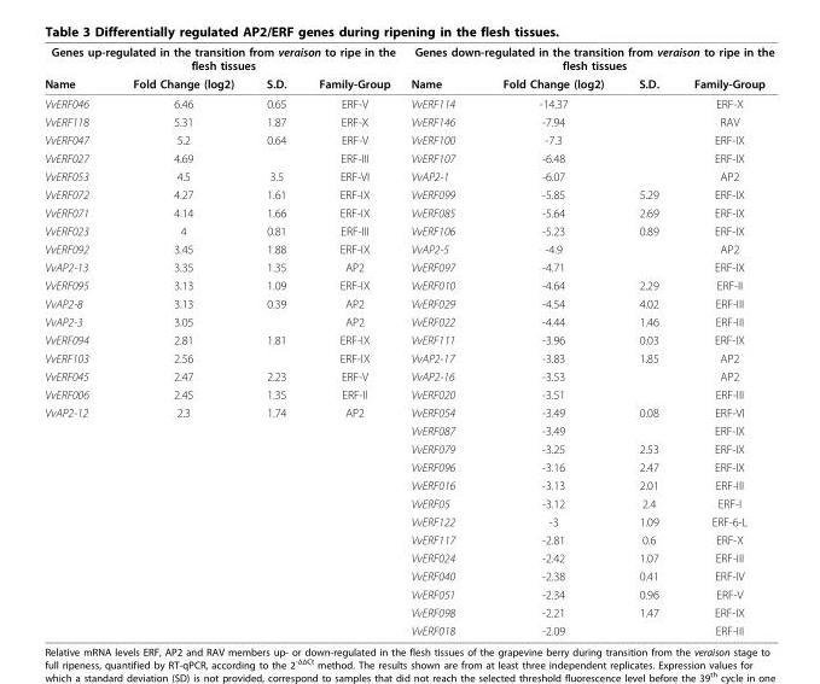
<table><thead><tr><td colspan="4">Genes up-regulated in the transition from veraison to ripe in the flesh tissues</td><td colspan="4">Genes down-regulated in the transition from veraison to ripe in the flesh tissues</td></tr><tr><td>Name</td><td>Fold Change (log2)</td><td>S.D.</td><td>Family-Group</td><td>Name</td><td>Fold Change (log2)</td><td>S.D.</td><td>Family-Group</td></tr></thead><tbody><tr><td>VvERF046</td><td>6.46</td><td>0.65</td><td>ERF-V</td><td>VvERF114</td><td>-14.37</td><td></td><td>ERF-X</td></tr><tr><td>VvERF118</td><td>5.31</td><td>1.87</td><td>ERF-X</td><td>VvERF146</td><td>-7.94</td><td></td><td>RAV</td></tr><tr><td>VvERF047</td><td>5.2</td><td>0.64</td><td>ERF-V</td><td>VvERF100</td><td>-7.3</td><td></td><td>ERF-IX</td></tr><tr><td>VvERF027</td><td>4.69</td><td></td><td>ERF-III</td><td>VvERF107</td><td>-6.48</td><td></td><td>ERF-IX</td></tr><tr><td>VvERF053</td><td>4.5</td><td>3.5</td><td>ERF-VI</td><td>VvAP2-1</td><td>-6.07</td><td></td><td>AP2</td></tr><tr><td>VvERF072</td><td>4.27</td><td>1.61</td><td>ERF-IX</td><td>VvERF099</td><td>-5.85</td><td>5.29</td><td>ERF-IX</td></tr><tr><td>VvERF071</td><td>4.14</td><td>1.66</td><td>ERF-IX</td><td>VvERF085</td><td>-5.64</td><td>2.69</td><td>ERF-IX</td></tr><tr><td>VvERF023</td><td>4</td><td>0.81</td><td>ERF-III</td><td>VvERF106</td><td>-5.23</td><td>0.89</td><td>ERF-IX</td></tr><tr><td>VvERF092</td><td>3.45</td><td>1.88</td><td>ERF-IX</td><td>VvAP2-5</td><td>-4.9</td><td></td><td>AP2</td></tr><tr><td>VvAP2-13</td><td>3.35</td><td>1.35</td><td>AP2</td><td>VvERF097</td><td>-4.71</td><td></td><td>ERF-IX</td></tr><tr><td>VvERF095</td><td>3.13</td><td>1.09</td><td>ERF-IX</td><td>VvERF010</td><td>-4.64</td><td>2.29</td><td>ERF-II</td></tr><tr><td>VvAP2-8</td><td>3.13</td><td>0.39</td><td>AP2</td><td>VvERF029</td><td>-4.54</td><td>4.02</td><td>ERF-III</td></tr><tr><td>VvAP2-3</td><td>3.05</td><td></td><td>AP2</td><td>VvERF022</td><td>-4.44</td><td>1.46</td><td>ERF-III</td></tr><tr><td>VvERF094</td><td>2.81</td><td>1.81</td><td>ERF-IX</td><td>VvERF111</td><td>-3.96</td><td>0.03</td><td>ERF-IX</td></tr><tr><td>VvERF103</td><td>2.56</td><td></td><td>ERF-IX</td><td>VvAP2-17</td><td>-3.83</td><td>1.85</td><td>AP2</td></tr><tr><td>VvERF045</td><td>2.47</td><td>2.23</td><td>ERF-V</td><td>VvAP2-16</td><td>-3.53</td><td></td><td>AP2</td></tr><tr><td>VvERF006</td><td>2.45</td><td>1.35</td><td>ERF-II</td><td>VvERF020</td><td>-3.51</td><td></td><td>ERF-III</td></tr><tr><td rowspan="13">VvAP2-12</td><td>2.3</td><td>1.74</td><td>AP2</td><td>VvERF054</td><td>-3.49</td><td>0.08</td><td>ERF-VI</td></tr><tr><td></td><td></td><td></td><td>VvERF087</td><td>-3.49</td><td></td><td>ERF-IX</td></tr><tr><td></td><td></td><td></td><td>VvERF079</td><td>-3.25</td><td>2.53</td><td>ERF-IX</td></tr><tr><td></td><td></td><td></td><td>VvERF096</td><td>-3.16</td><td>2.47</td><td>ERF-IX</td></tr><tr><td></td><td></td><td></td><td>VvERF016</td><td>-3.13</td><td>2.01</td><td>ERF-III</td></tr><tr><td></td><td></td><td></td><td>VvERF05</td><td>-3.12</td><td>2.4</td><td>ERF-I</td></tr><tr><td></td><td></td><td></td><td>VvERF122</td><td>-3</td><td>1.09</td><td>ERF-6-L</td></tr><tr><td></td><td></td><td></td><td>VvERF117</td><td>-2.81</td><td>0.6</td><td>ERF-X</td></tr><tr><td></td><td></td><td></td><td>VvERF024</td><td>-2.42</td><td>1.07</td><td>ERF-III</td></tr><tr><td></td><td></td><td></td><td>VvERF040</td><td>-2.38</td><td>0.41</td><td>ERF-IV</td></tr><tr><td></td><td></td><td></td><td>VvERF051</td><td>-2.34</td><td>0.96</td><td>ERF-V</td></tr><tr><td></td><td></td><td></td><td>VvERF098</td><td>-2.21</td><td>1.47</td><td>ERF-IX</td></tr><tr><td></td><td></td><td></td><td>VvERF018</td><td>-2.09</td><td></td><td>ERF-III</td></tr></tbody></table>